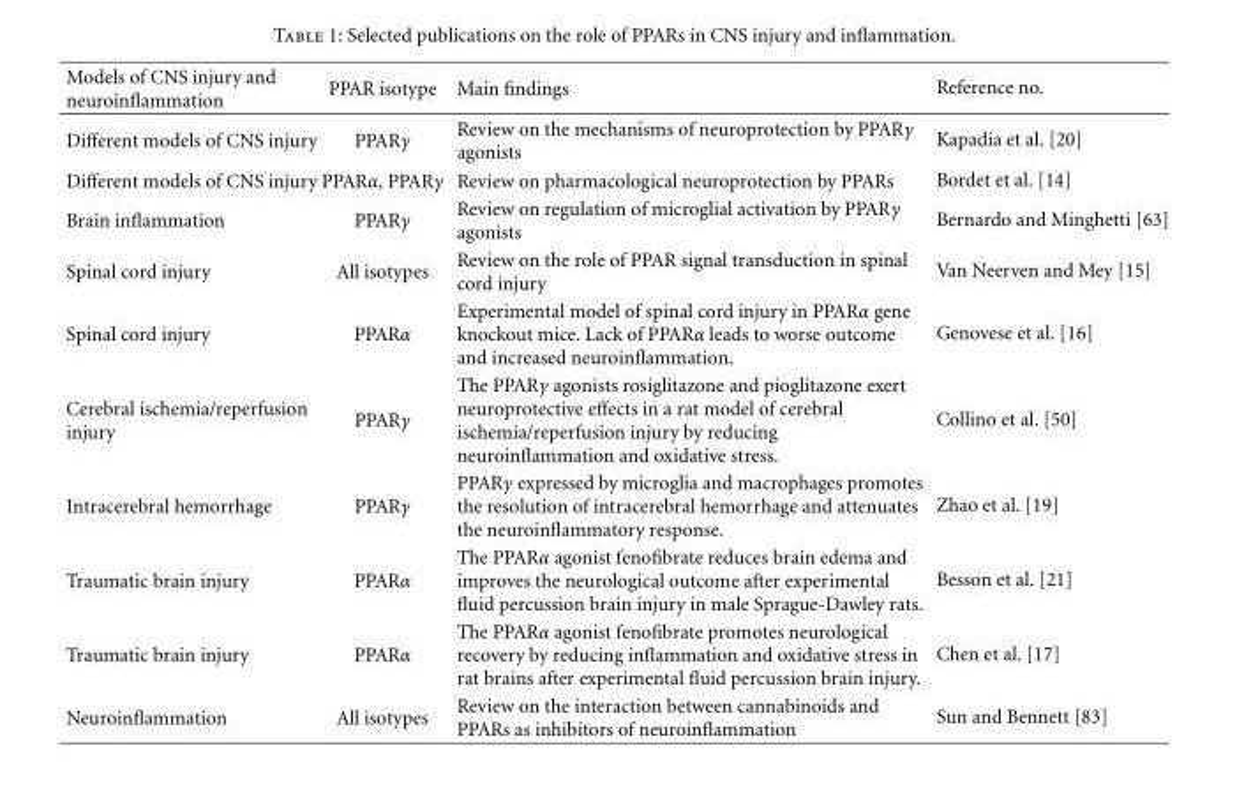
<table><thead><tr><td>Models of CNS injury and neuroinflammation</td><td>PPAR isotype</td><td>Main findings</td><td>Reference no.</td></tr></thead><tbody><tr><td>Different models of CNS injury</td><td>PPARγ</td><td>Review on the mechanisms of neuroprotection by PPARγ agonists</td><td>Kapadia et al. [20]</td></tr><tr><td>Different models of CNS injury</td><td>PPARα, PPARγ</td><td>Review on pharmacological neuroprotection by PPARs</td><td>Bordet et al. [14]</td></tr><tr><td>Brain inflammation</td><td>PPARγ</td><td>Review on regulation of microglial activation by PPARγ agonists</td><td>Bernardo and Minghetti [63]</td></tr><tr><td>Spinal cord injury</td><td>All isotypes</td><td>Review on the role of PPAR signal transduction in spinal cord injury</td><td>Van Neerven and Mey [15]</td></tr><tr><td>Spinal cord injury</td><td>PPARα</td><td>Experimental model of spinal cord injury in PPARα gene knockout mice. Lack of PPARα leads to worse outcome and increased neuroinflammation.</td><td>Genovese et al. [16]</td></tr><tr><td>Cerebral ischemia/reperfusion injury</td><td>PPARγ</td><td>The PPARγ agonists rosiglitazone and pioglitazone exert neuroprotective effects in a rat model of cerebral ischemia/reperfusion injury by reducing neuroinflammation and oxidative stress.</td><td>Collino et al. [50]</td></tr><tr><td>Intracerebral hemorrhage</td><td>PPARγ</td><td>PPARγ expressed by microglia and macrophages promotes the resolution of intracerebral hemorrhage and attenuates the neuroinflammatory response.</td><td>Zhao et al. [19]</td></tr><tr><td>Traumatic brain injury</td><td>PPARα</td><td>The PPARα agonist fenofibrate reduces brain edema and improves the neurological outcome after experimental fluid percussion brain injury in male Sprague-Dawley rats.</td><td>Besson et al. [21]</td></tr><tr><td>Traumatic brain injury</td><td>PPARα</td><td>The PPARα agonist fenofibrate promotes neurological recovery by reducing inflammation and oxidative stress in rat brains after experimental fluid percussion brain injury.</td><td>Chen et al. [17]</td></tr><tr><td>Neuroinflammation</td><td>All isotypes</td><td>Review on the interaction between cannabinoids and PPARs as inhibitors of neuroinflammation</td><td>Sun and Bennett [83]</td></tr></tbody></table>